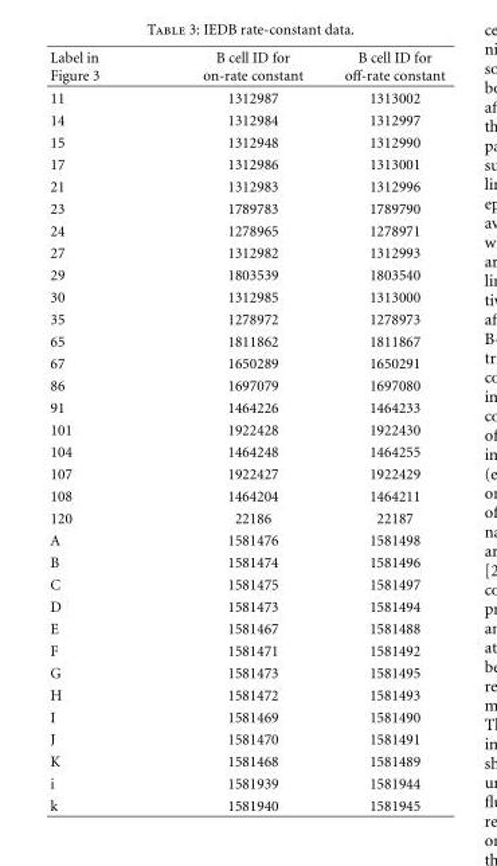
<table><thead><tr><td>Label in Figure 3</td><td>B cell ID for on-rate constant</td><td>B cell ID for off-rate constant</td></tr></thead><tbody><tr><td>11</td><td>1312987</td><td>1313002</td></tr><tr><td>14</td><td>1312984</td><td>1312997</td></tr><tr><td>15</td><td>1312948</td><td>1312990</td></tr><tr><td>17</td><td>1312986</td><td>1313001</td></tr><tr><td>21</td><td>1312983</td><td>1312996</td></tr><tr><td>23</td><td>1789783</td><td>1789790</td></tr><tr><td>24</td><td>1278965</td><td>1278971</td></tr><tr><td>27</td><td>1312982</td><td>1312993</td></tr><tr><td>29</td><td>1803539</td><td>1803540</td></tr><tr><td>30</td><td>1312985</td><td>1313000</td></tr><tr><td>35</td><td>1278972</td><td>1278973</td></tr><tr><td>65</td><td>1811862</td><td>1811867</td></tr><tr><td>67</td><td>1650289</td><td>1650291</td></tr><tr><td>86</td><td>1697079</td><td>1697080</td></tr><tr><td>91</td><td>1464226</td><td>1464233</td></tr><tr><td>101</td><td>1922428</td><td>1922430</td></tr><tr><td>104</td><td>1464248</td><td>1464255</td></tr><tr><td>107</td><td>1922427</td><td>1922429</td></tr><tr><td>108</td><td>1464204</td><td>1464211</td></tr><tr><td>120</td><td>22186</td><td>22187</td></tr><tr><td>A</td><td>1581476</td><td>1581498</td></tr><tr><td>B</td><td>1581474</td><td>1581496</td></tr><tr><td>C</td><td>1581475</td><td>1581497</td></tr><tr><td>D</td><td>1581473</td><td>1581494</td></tr><tr><td>E</td><td>1581467</td><td>1581488</td></tr><tr><td>F</td><td>1581471</td><td>1581492</td></tr><tr><td>G</td><td>1581473</td><td>1581495</td></tr><tr><td>H</td><td>1581472</td><td>1581493</td></tr><tr><td>I</td><td>1581469</td><td>1581490</td></tr><tr><td>J</td><td>1581470</td><td>1581491</td></tr><tr><td>K</td><td>1581468</td><td>1581489</td></tr><tr><td>i</td><td>1581939</td><td>1581944</td></tr><tr><td>k</td><td>1581940</td><td>1581945</td></tr></tbody></table>